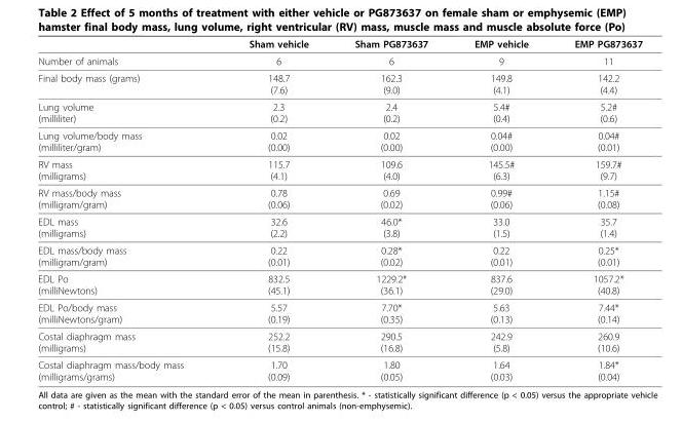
<table><thead><tr><td></td><td>Sham vehicle</td><td>Sham PG873637</td><td>EMP vehicle</td><td>EMP PG873637</td></tr></thead><tbody><tr><td>Number of animals</td><td>6</td><td>6</td><td>9</td><td>11</td></tr><tr><td>Final body mass (grams)</td><td>148.7 (7.6)</td><td>162.3 (9.0)</td><td>149.8 (4.1)</td><td>142.2 (4.4)</td></tr><tr><td>Lung volume (milliliter)</td><td>2.3 (0.2)</td><td>2.4 (0.2)</td><td>5.4# (0.4)</td><td>5.2# (0.6)</td></tr><tr><td>Lung volume/body mass (milliliter/gram)</td><td>0.02 (0.00)</td><td>0.02 (0.00)</td><td>0.04# (0.00)</td><td>0.04# (0.01)</td></tr><tr><td>RV mass (milligrams)</td><td>115.7 (4.1)</td><td>109.6 (4.0)</td><td>145.5# (6.3)</td><td>159.7# (9.7)</td></tr><tr><td>RV mass/body mass (milligram/gram)</td><td>0.78 (0.06)</td><td>0.69 (0.02)</td><td>0.99# (0.06)</td><td>1.15# (0.08)</td></tr><tr><td>EDL mass (milligrams)</td><td>32.6 (2.2)</td><td>46.0* (3.8)</td><td>33.0 (1.5)</td><td>35.7 (1.4)</td></tr><tr><td>EDL mass/body mass (milligram/gram)</td><td>0.22 (0.01)</td><td>0.28* (0.02)</td><td>0.22 (0.01)</td><td>0.25* (0.01)</td></tr><tr><td>EDL Po (milliNewtons)</td><td>832.5 (45.1)</td><td>1229.2* (36.1)</td><td>837.6 (29.0)</td><td>1057.2* (40.8)</td></tr><tr><td>EDL Po/body mass (milliNewtons/gram)</td><td>5.57 (0.19)</td><td>7.70* (0.35)</td><td>5.63 (0.13)</td><td>7.44* (0.14)</td></tr><tr><td>Costal diaphragm mass (milligrams)</td><td>252.2 (15.8)</td><td>290.5 (16.8)</td><td>242.9 (5.8)</td><td>260.9 (10.6)</td></tr><tr><td>Costal diaphragm mass/body mass (milligrams/grams)</td><td>1.70 (0.09)</td><td>1.80 (0.05)</td><td>1.64 (0.03)</td><td>1.84* (0.04)</td></tr></tbody></table>